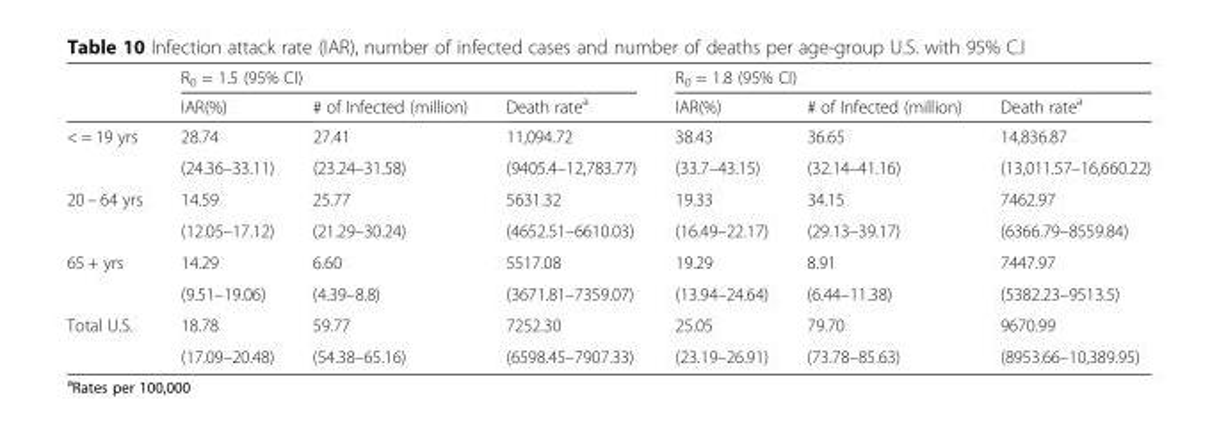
<table><thead><tr><td rowspan="2"></td><td colspan="3">R<sub>0</sub> = 1.5 (95% CI)</td><td colspan="3">R<sub>0</sub> = 1.8 (95% CI)</td></tr><tr><td>IAR(%)</td><td># of Infected (million)</td><td>Death rate<sup>a</sup></td><td>IAR(%)</td><td># of Infected (million)</td><td>Death rate<sup>a</sup></td></tr></thead><tbody><tr><td rowspan="2">&lt; = 19 yrs</td><td>28.74</td><td>27.41</td><td>11,094.72</td><td>38.43</td><td>36.65</td><td>14,836.87</td></tr><tr><td>(24.36–33.11)</td><td>(23.24–31.58)</td><td>(9405.4–12,783.77)</td><td>(33.7–43.15)</td><td>(32.14–41.16)</td><td>(13,011.57–16,660.22)</td></tr><tr><td rowspan="2">20 – 64 yrs</td><td>14.59</td><td>25.77</td><td>5631.32</td><td>19.33</td><td>34.15</td><td>7462.97</td></tr><tr><td>(12.05–17.12)</td><td>(21.29–30.24)</td><td>(4652.51–6610.03)</td><td>(16.49–22.17)</td><td>(29.13–39.17)</td><td>(6366.79–8559.84)</td></tr><tr><td rowspan="2">65 + yrs</td><td>14.29</td><td>6.60</td><td>5517.08</td><td>19.29</td><td>8.91</td><td>7447.97</td></tr><tr><td>(9.51–19.06)</td><td>(4.39–8.8)</td><td>(3671.81–7359.07)</td><td>(13.94–24.64)</td><td>(6.44–11.38)</td><td>(5382.23–9513.5)</td></tr><tr><td rowspan="2">Total U.S.</td><td>18.78</td><td>59.77</td><td>7252.30</td><td>25.05</td><td>79.70</td><td>9670.99</td></tr><tr><td>(17.09–20.48)</td><td>(54.38–65.16)</td><td>(6598.45–7907.33)</td><td>(23.19–26.91)</td><td>(73.78–85.63)</td><td>(8953.66–10,389.95)</td></tr></tbody></table>